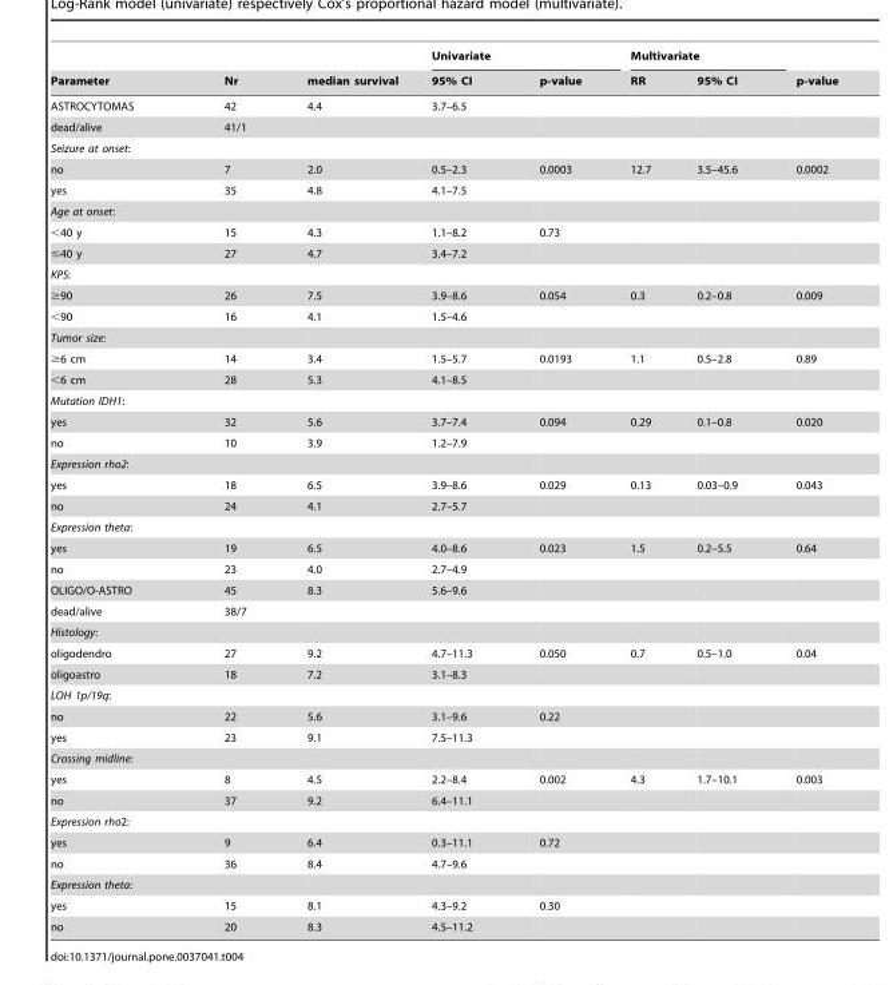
<table><thead><tr><td rowspan="2">Parameter</td><td rowspan="2">Nr</td><td rowspan="2">median survival</td><td colspan="2">Univariate</td><td colspan="2">Multivariate</td><td rowspan="2">p-value</td></tr><tr><td>95% CI</td><td>p-value</td><td>RR</td><td>95% CI</td></tr></thead><tbody><tr><td>ASTROCYTOMAS</td><td>42</td><td>4.4</td><td>3.7–6.5</td><td></td><td></td><td></td><td></td></tr><tr><td>dead/alive</td><td>41/1</td><td></td><td></td><td></td><td></td><td></td><td></td></tr><tr><td colspan="8">Seizure at onset:</td></tr><tr><td>no</td><td>7</td><td>2.0</td><td>0.5–2.3</td><td>0.0003</td><td>12.7</td><td>3.5–45.6</td><td>0.0002</td></tr><tr><td>yes</td><td>35</td><td>4.8</td><td>4.1–7.5</td><td></td><td></td><td></td><td></td></tr><tr><td colspan="8">Age at onset:</td></tr><tr><td>&lt;40 y</td><td>15</td><td>4.3</td><td>1.1–8.2</td><td>0.73</td><td></td><td></td><td></td></tr><tr><td>≤40 y</td><td>27</td><td>4.7</td><td>3.4–7.2</td><td></td><td></td><td></td><td></td></tr><tr><td colspan="8">KPS:</td></tr><tr><td>≥90</td><td>26</td><td>7.5</td><td>3.9–8.6</td><td>0.054</td><td>0.3</td><td>0.2–0.8</td><td>0.009</td></tr><tr><td>&lt;90</td><td>16</td><td>4.1</td><td>1.5–4.6</td><td></td><td></td><td></td><td></td></tr><tr><td colspan="8">Tumor size:</td></tr><tr><td>≥6 cm</td><td>14</td><td>3.4</td><td>1.5–5.7</td><td>0.0193</td><td>1.1</td><td>0.5–2.8</td><td>0.89</td></tr><tr><td>&lt;6 cm</td><td>28</td><td>5.3</td><td>4.1–8.5</td><td></td><td></td><td></td><td></td></tr><tr><td colspan="8">Mutation IDH1:</td></tr><tr><td>yes</td><td>32</td><td>5.6</td><td>3.7–7.4</td><td>0.094</td><td>0.29</td><td>0.1–0.8</td><td>0.020</td></tr><tr><td>no</td><td>10</td><td>3.9</td><td>1.2–7.9</td><td></td><td></td><td></td><td></td></tr><tr><td colspan="8">Expression rho2:</td></tr><tr><td>yes</td><td>18</td><td>6.5</td><td>3.9–8.6</td><td>0.029</td><td>0.13</td><td>0.03–0.9</td><td>0.043</td></tr><tr><td>no</td><td>24</td><td>4.1</td><td>2.7–5.7</td><td></td><td></td><td></td><td></td></tr><tr><td colspan="8">Expression theta:</td></tr><tr><td>yes</td><td>19</td><td>6.5</td><td>4.0–8.6</td><td>0.023</td><td>1.5</td><td>0.2–5.5</td><td>0.64</td></tr><tr><td>no</td><td>23</td><td>4.0</td><td>2.7–4.9</td><td></td><td></td><td></td><td></td></tr><tr><td>OLIGO/O-ASTRO</td><td>45</td><td>8.3</td><td>5.6–9.6</td><td></td><td></td><td></td><td></td></tr><tr><td>dead/alive</td><td>38/7</td><td></td><td></td><td></td><td></td><td></td><td></td></tr><tr><td colspan="8">Histology:</td></tr><tr><td>oligodendro</td><td>27</td><td>9.2</td><td>4.7–11.3</td><td>0.050</td><td>0.7</td><td>0.5–1.0</td><td>0.04</td></tr><tr><td>oligoastro</td><td>18</td><td>7.2</td><td>3.1–8.3</td><td></td><td></td><td></td><td></td></tr><tr><td colspan="8">LOH 1p/19q:</td></tr><tr><td>no</td><td>22</td><td>5.6</td><td>3.1–9.6</td><td>0.22</td><td></td><td></td><td></td></tr><tr><td>yes</td><td>23</td><td>9.1</td><td>7.5–11.3</td><td></td><td></td><td></td><td></td></tr><tr><td colspan="8">Crossing midline:</td></tr><tr><td>yes</td><td>8</td><td>4.5</td><td>2.2–8.4</td><td>0.002</td><td>4.3</td><td>1.7–10.1</td><td>0.003</td></tr><tr><td>no</td><td>37</td><td>9.2</td><td>6.4–11.1</td><td></td><td></td><td></td><td></td></tr><tr><td colspan="8">Expression rho2:</td></tr><tr><td>yes</td><td>9</td><td>6.4</td><td>0.3–11.1</td><td>0.72</td><td></td><td></td><td></td></tr><tr><td>no</td><td>36</td><td>8.4</td><td>4.7–9.6</td><td></td><td></td><td></td><td></td></tr><tr><td colspan="8">Expression theta:</td></tr><tr><td>yes</td><td>15</td><td>8.1</td><td>4.3–9.2</td><td>0.30</td><td></td><td></td><td></td></tr><tr><td>no</td><td>20</td><td>8.3</td><td>4.5–11.2</td><td></td><td></td><td></td><td></td></tr></tbody></table>